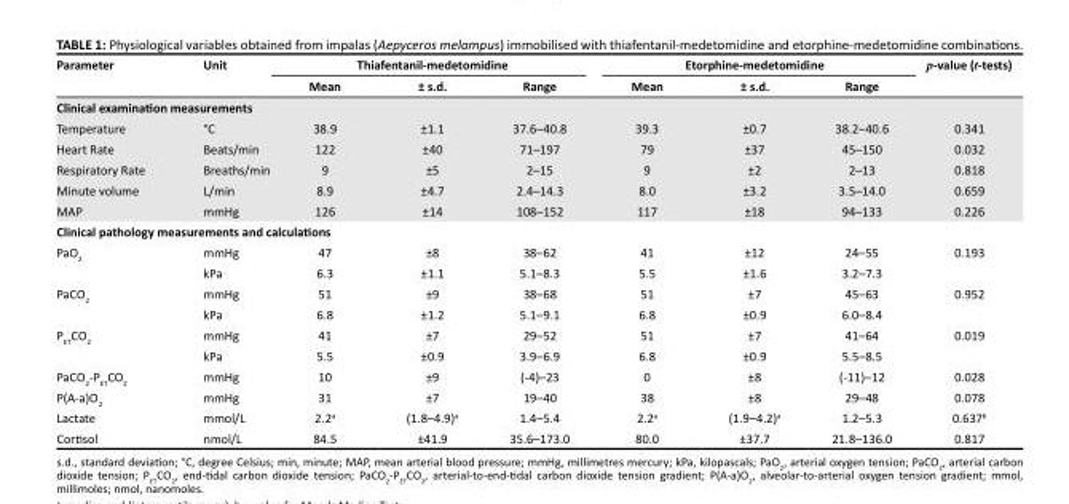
<table><thead><tr><td rowspan="2">Parameter</td><td rowspan="2">Unit</td><td colspan="3">Thiafentanil-medetomidine</td><td colspan="3">Etorphine-medetomidine</td><td rowspan="2">p-value (t-tests)</td></tr><tr><td>Mean</td><td>± s.d.</td><td>Range</td><td>Mean</td><td>± s.d.</td><td>Range</td></tr></thead><tbody><tr><td colspan="9">Clinical examination measurements</td></tr><tr><td>Temperature</td><td>°C</td><td>38.9</td><td>±1.1</td><td>37.6–40.8</td><td>39.3</td><td>±0.7</td><td>38.2–40.6</td><td>0.341</td></tr><tr><td>Heart Rate</td><td>Beats/min</td><td>122</td><td>±40</td><td>71–197</td><td>79</td><td>±37</td><td>45–150</td><td>0.032</td></tr><tr><td>Respiratory Rate</td><td>Breaths/min</td><td>9</td><td>±5</td><td>2–15</td><td>9</td><td>±2</td><td>2–13</td><td>0.818</td></tr><tr><td>Minute volume</td><td>L/min</td><td>8.9</td><td>±4.7</td><td>2.4–14.3</td><td>8.0</td><td>±3.2</td><td>3.5–14.0</td><td>0.659</td></tr><tr><td>MAP</td><td>mmHg</td><td>126</td><td>±14</td><td>108–152</td><td>117</td><td>±18</td><td>94–133</td><td>0.226</td></tr><tr><td colspan="9">Clinical pathology measurements and calculations</td></tr><tr><td rowspan="2">PaO<sub>2</sub></td><td>mmHg</td><td>47</td><td>±8</td><td>38–62</td><td>41</td><td>±12</td><td>24–55</td><td>0.193</td></tr><tr><td>kPa</td><td>6.3</td><td>±1.1</td><td>5.1–8.3</td><td>5.5</td><td>±1.6</td><td>3.2–7.3</td><td></td></tr><tr><td rowspan="2">PaCO<sub>2</sub></td><td>mmHg</td><td>51</td><td>±9</td><td>38–68</td><td>51</td><td>±7</td><td>45–63</td><td>0.952</td></tr><tr><td>kPa</td><td>6.8</td><td>±1.2</td><td>5.1–9.1</td><td>6.8</td><td>±0.9</td><td>6.0–8.4</td><td></td></tr><tr><td rowspan="2">P<sub>ET</sub>CO<sub>2</sub></td><td>mmHg</td><td>41</td><td>±7</td><td>29–52</td><td>51</td><td>±7</td><td>41–64</td><td>0.019</td></tr><tr><td>kPa</td><td>5.5</td><td>±0.9</td><td>3.9–6.9</td><td>6.8</td><td>±0.9</td><td>5.5–8.5</td><td></td></tr><tr><td>PaCO<sub>2</sub>-P<sub>ET</sub>CO<sub>2</sub></td><td>mmHg</td><td>10</td><td>±9</td><td>(-4)–23</td><td>0</td><td>±8</td><td>(-11)–12</td><td>0.028</td></tr><tr><td>P(A-a)O<sub>2</sub></td><td>mmHg</td><td>31</td><td>±7</td><td>19–40</td><td>38</td><td>±8</td><td>29–48</td><td>0.078</td></tr><tr><td>Lactate</td><td>mmol/L</td><td>2.2<sup>a</sup></td><td>(1.8–4.9)<sup>a</sup></td><td>1.4–5.4</td><td>2.2<sup>a</sup></td><td>(1.9–4.2)<sup>a</sup></td><td>1.2–5.3</td><td>0.637<sup>b</sup></td></tr><tr><td>Cortisol</td><td>nmol/L</td><td>84.5</td><td>±41.9</td><td>35.6–173.0</td><td>80.0</td><td>±37.7</td><td>21.8–136.0</td><td>0.817</td></tr></tbody></table>